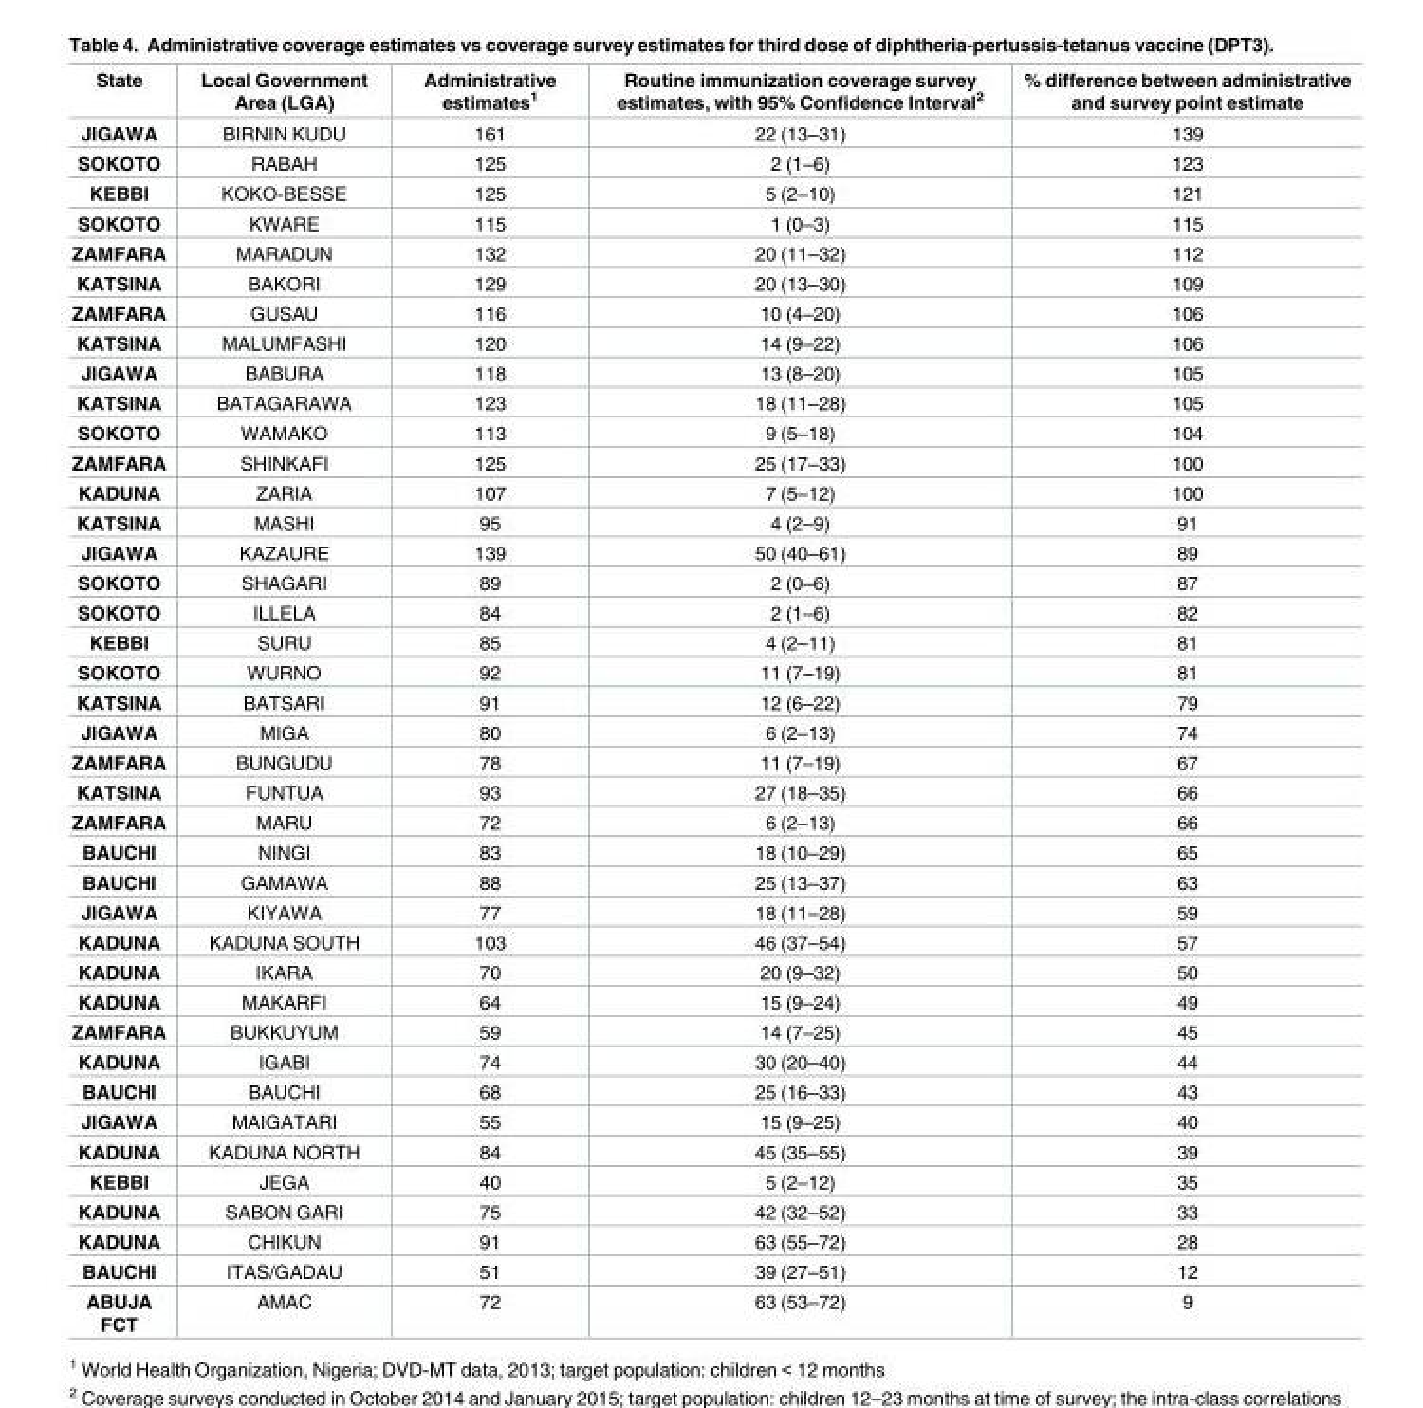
<table><thead><tr><td>State</td><td>Local Government Area (LGA)</td><td>Administrative estimates<sup>1</sup></td><td>Routine immunization coverage survey estimates, with 95% Confidence Interval<sup>2</sup></td><td>% difference between administrative and survey point estimate</td></tr></thead><tbody><tr><td>JIGAWA</td><td>BIRNIN KUDU</td><td>161</td><td>22 (13–31)</td><td>139</td></tr><tr><td>SOKOTO</td><td>RABAH</td><td>125</td><td>2 (1–6)</td><td>123</td></tr><tr><td>KEBBI</td><td>KOKO-BESSE</td><td>125</td><td>5 (2–10)</td><td>121</td></tr><tr><td>SOKOTO</td><td>KWARE</td><td>115</td><td>1 (0–3)</td><td>115</td></tr><tr><td>ZAMFARA</td><td>MARADUN</td><td>132</td><td>20 (11–32)</td><td>112</td></tr><tr><td>KATSINA</td><td>BAKORI</td><td>129</td><td>20 (13–30)</td><td>109</td></tr><tr><td>ZAMFARA</td><td>GUSAU</td><td>116</td><td>10 (4–20)</td><td>106</td></tr><tr><td>KATSINA</td><td>MALUMFASHI</td><td>120</td><td>14 (9–22)</td><td>106</td></tr><tr><td>JIGAWA</td><td>BABURA</td><td>118</td><td>13 (8–20)</td><td>105</td></tr><tr><td>KATSINA</td><td>BATAGARAWA</td><td>123</td><td>18 (11–28)</td><td>105</td></tr><tr><td>SOKOTO</td><td>WAMAKO</td><td>113</td><td>9 (5–18)</td><td>104</td></tr><tr><td>ZAMFARA</td><td>SHINKAFI</td><td>125</td><td>25 (17–33)</td><td>100</td></tr><tr><td>KADUNA</td><td>ZARIA</td><td>107</td><td>7 (5–12)</td><td>100</td></tr><tr><td>KATSINA</td><td>MASHI</td><td>95</td><td>4 (2–9)</td><td>91</td></tr><tr><td>JIGAWA</td><td>KAZAURE</td><td>139</td><td>50 (40–61)</td><td>89</td></tr><tr><td>SOKOTO</td><td>SHAGARI</td><td>89</td><td>2 (0–6)</td><td>87</td></tr><tr><td>SOKOTO</td><td>ILLELA</td><td>84</td><td>2 (1–6)</td><td>82</td></tr><tr><td>KEBBI</td><td>SURU</td><td>85</td><td>4 (2–11)</td><td>81</td></tr><tr><td>SOKOTO</td><td>WURNO</td><td>92</td><td>11 (7–19)</td><td>81</td></tr><tr><td>KATSINA</td><td>BATSARI</td><td>91</td><td>12 (6–22)</td><td>79</td></tr><tr><td>JIGAWA</td><td>MIGA</td><td>80</td><td>6 (2–13)</td><td>74</td></tr><tr><td>ZAMFARA</td><td>BUNGUDU</td><td>78</td><td>11 (7–19)</td><td>67</td></tr><tr><td>KATSINA</td><td>FUNTUA</td><td>93</td><td>27 (18–35)</td><td>66</td></tr><tr><td>ZAMFARA</td><td>MARU</td><td>72</td><td>6 (2–13)</td><td>66</td></tr><tr><td>BAUCHI</td><td>NINGI</td><td>83</td><td>18 (10–29)</td><td>65</td></tr><tr><td>BAUCHI</td><td>GAMAWA</td><td>88</td><td>25 (13–37)</td><td>63</td></tr><tr><td>JIGAWA</td><td>KIYAWA</td><td>77</td><td>18 (11–28)</td><td>59</td></tr><tr><td>KADUNA</td><td>KADUNA SOUTH</td><td>103</td><td>46 (37–54)</td><td>57</td></tr><tr><td>KADUNA</td><td>IKARA</td><td>70</td><td>20 (9–32)</td><td>50</td></tr><tr><td>KADUNA</td><td>MAKARFI</td><td>64</td><td>15 (9–24)</td><td>49</td></tr><tr><td>ZAMFARA</td><td>BUKKUYUM</td><td>59</td><td>14 (7–25)</td><td>45</td></tr><tr><td>KADUNA</td><td>IGABI</td><td>74</td><td>30 (20–40)</td><td>44</td></tr><tr><td>BAUCHI</td><td>BAUCHI</td><td>68</td><td>25 (16–33)</td><td>43</td></tr><tr><td>JIGAWA</td><td>MAIGATARI</td><td>55</td><td>15 (9–25)</td><td>40</td></tr><tr><td>KADUNA</td><td>KADUNA NORTH</td><td>84</td><td>45 (35–55)</td><td>39</td></tr><tr><td>KEBBI</td><td>JEGA</td><td>40</td><td>5 (2–12)</td><td>35</td></tr><tr><td>KADUNA</td><td>SABON GARI</td><td>75</td><td>42 (32–52)</td><td>33</td></tr><tr><td>KADUNA</td><td>CHIKUN</td><td>91</td><td>63 (55–72)</td><td>28</td></tr><tr><td>BAUCHI</td><td>ITAS/GADAU</td><td>51</td><td>39 (27–51)</td><td>12</td></tr><tr><td>ABUJA FCT</td><td>AMAC</td><td>72</td><td>63 (53–72)</td><td>9</td></tr></tbody></table>